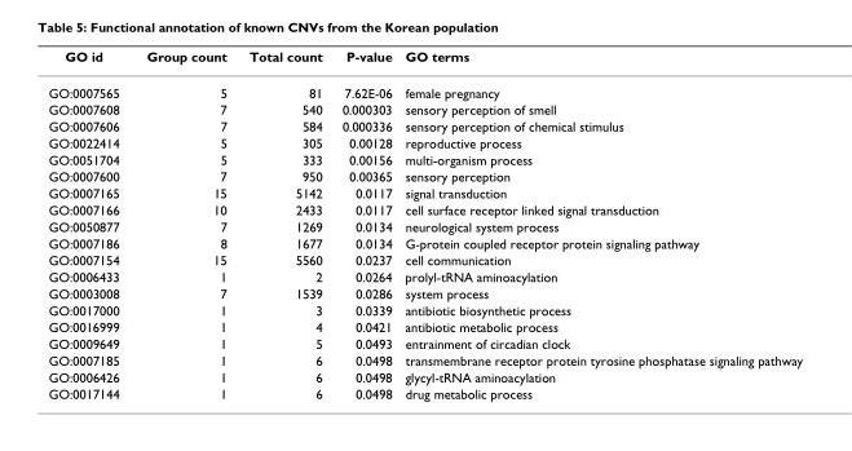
<table><thead><tr><td>GO id</td><td>Group count</td><td>Total count</td><td>P-value</td><td>GO terms</td></tr></thead><tbody><tr><td>GO:0007565</td><td>5</td><td>81</td><td>7.62E-06</td><td>female pregnancy</td></tr><tr><td>GO:0007608</td><td>7</td><td>540</td><td>0.000303</td><td>sensory perception of smell</td></tr><tr><td>GO:0007606</td><td>7</td><td>584</td><td>0.000336</td><td>sensory perception of chemical stimulus</td></tr><tr><td>GO:0022414</td><td>5</td><td>305</td><td>0.00128</td><td>reproductive process</td></tr><tr><td>GO:0051704</td><td>5</td><td>333</td><td>0.00156</td><td>multi-organism process</td></tr><tr><td>GO:0007600</td><td>7</td><td>950</td><td>0.00365</td><td>sensory perception</td></tr><tr><td>GO:0007165</td><td>15</td><td>5142</td><td>0.0117</td><td>signal transduction</td></tr><tr><td>GO:0007166</td><td>10</td><td>2433</td><td>0.0117</td><td>cell surface receptor linked signal transduction</td></tr><tr><td>GO:0050877</td><td>7</td><td>1269</td><td>0.0134</td><td>neurological system process</td></tr><tr><td>GO:0007186</td><td>8</td><td>1677</td><td>0.0134</td><td>G-protein coupled receptor protein signaling pathway</td></tr><tr><td>GO:0007154</td><td>15</td><td>5560</td><td>0.0237</td><td>cell communication</td></tr><tr><td>GO:0006433</td><td>1</td><td>2</td><td>0.0264</td><td>prolyl-tRNA aminoacylation</td></tr><tr><td>GO:0003008</td><td>7</td><td>1539</td><td>0.0286</td><td>system process</td></tr><tr><td>GO:0017000</td><td>1</td><td>3</td><td>0.0339</td><td>antibiotic biosynthetic process</td></tr><tr><td>GO:0016999</td><td>1</td><td>4</td><td>0.0421</td><td>antibiotic metabolic process</td></tr><tr><td>GO:0009649</td><td>1</td><td>5</td><td>0.0493</td><td>entrainment of circadian clock</td></tr><tr><td>GO:0007185</td><td>1</td><td>6</td><td>0.0498</td><td>transmembrane receptor protein tyrosine phosphatase signaling pathway</td></tr><tr><td>GO:0006426</td><td>1</td><td>6</td><td>0.0498</td><td>glycyl-tRNA aminoacylation</td></tr><tr><td>GO:0017144</td><td>1</td><td>6</td><td>0.0498</td><td>drug metabolic process</td></tr></tbody></table>